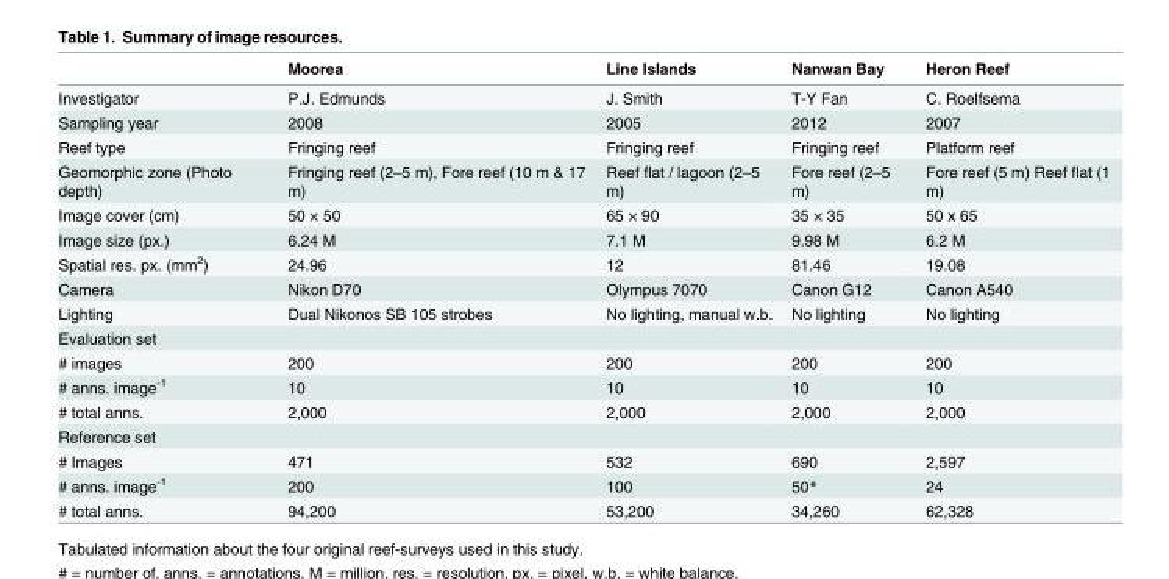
<table><thead><tr><td></td><td>Moorea</td><td>Line Islands</td><td>Nanwan Bay</td><td>Heron Reef</td></tr></thead><tbody><tr><td>Investigator</td><td>P.J. Edmunds</td><td>J. Smith</td><td>T-Y Fan</td><td>C. Roelfsema</td></tr><tr><td>Sampling year</td><td>2008</td><td>2005</td><td>2012</td><td>2007</td></tr><tr><td>Reef type</td><td>Fringing reef</td><td>Fringing reef</td><td>Fringing reef</td><td>Platform reef</td></tr><tr><td>Geomorphic zone (Photo depth)</td><td>Fringing reef (2–5 m), Fore reef (10 m &amp; 17 m)</td><td>Reef flat / lagoon (2–5 m)</td><td>Fore reef (2–5 m)</td><td>Fore reef (5 m) Reef flat (1 m)</td></tr><tr><td>Image cover (cm)</td><td>50 × 50</td><td>65 × 90</td><td>35 × 35</td><td>50 x 65</td></tr><tr><td>Image size (px.)</td><td>6.24 M</td><td>7.1 M</td><td>9.98 M</td><td>6.2 M</td></tr><tr><td>Spatial res. px. (mm<sup>2</sup>)</td><td>24.96</td><td>12</td><td>81.46</td><td>19.08</td></tr><tr><td>Camera</td><td>Nikon D70</td><td>Olympus 7070</td><td>Canon G12</td><td>Canon A540</td></tr><tr><td>Lighting</td><td>Dual Nikonos SB 105 strobes</td><td>No lighting, manual w.b.</td><td>No lighting</td><td>No lighting</td></tr><tr><td colspan="5">Evaluation set</td></tr><tr><td># images</td><td>200</td><td>200</td><td>200</td><td>200</td></tr><tr><td># anns. image<sup>-1</sup></td><td>10</td><td>10</td><td>10</td><td>10</td></tr><tr><td># total anns.</td><td>2,000</td><td>2,000</td><td>2,000</td><td>2,000</td></tr><tr><td colspan="5">Reference set</td></tr><tr><td># Images</td><td>471</td><td>532</td><td>690</td><td>2,597</td></tr><tr><td># anns. image<sup>-1</sup></td><td>200</td><td>100</td><td>50*</td><td>24</td></tr><tr><td># total anns.</td><td>94,200</td><td>53,200</td><td>34,260</td><td>62,328</td></tr></tbody></table>